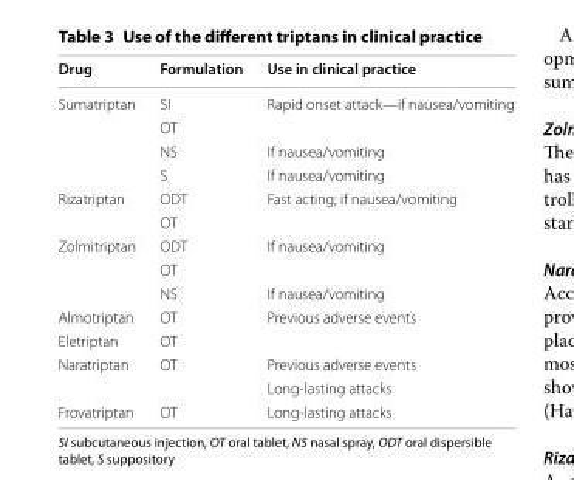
<table><thead><tr><td>Drug</td><td>Formulation</td><td>Use in clinical practice</td></tr></thead><tbody><tr><td rowspan="4">Sumatriptan</td><td>SI</td><td rowspan="2">Rapid onset attack—if nausea/vomiting</td></tr><tr><td>OT</td></tr><tr><td>NS</td><td>If nausea/vomiting</td></tr><tr><td>S</td><td>If nausea/vomiting</td></tr><tr><td rowspan="2">Rizatriptan</td><td>ODT</td><td rowspan="2">Fast acting; if nausea/vomiting</td></tr><tr><td>OT</td></tr><tr><td rowspan="3">Zolmitriptan</td><td>ODT</td><td rowspan="2">If nausea/vomiting</td></tr><tr><td>OT</td></tr><tr><td>NS</td><td>If nausea/vomiting</td></tr><tr><td>Almotriptan</td><td>OT</td><td>Previous adverse events</td></tr><tr><td>Eletriptan</td><td>OT</td><td></td></tr><tr><td rowspan="2">Naratriptan</td><td rowspan="2">OT</td><td>Previous adverse events</td></tr><tr><td>Long-lasting attacks</td></tr><tr><td>Frovatriptan</td><td>OT</td><td>Long-lasting attacks</td></tr></tbody></table>